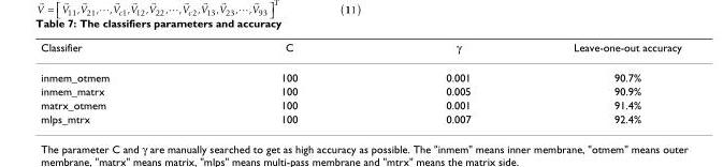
<table><thead><tr><td>Classifier</td><td>C</td><td>γ</td><td>Leave-one-out accuracy</td></tr></thead><tbody><tr><td>inmem_otmem</td><td>100</td><td>0.001</td><td>90.7%</td></tr><tr><td>inmem_matrx</td><td>100</td><td>0.005</td><td>90.9%</td></tr><tr><td>matrx_otmem</td><td>100</td><td>0.001</td><td>91.4%</td></tr><tr><td>mlps_mtrx</td><td>100</td><td>0.007</td><td>92.4%</td></tr></tbody></table>